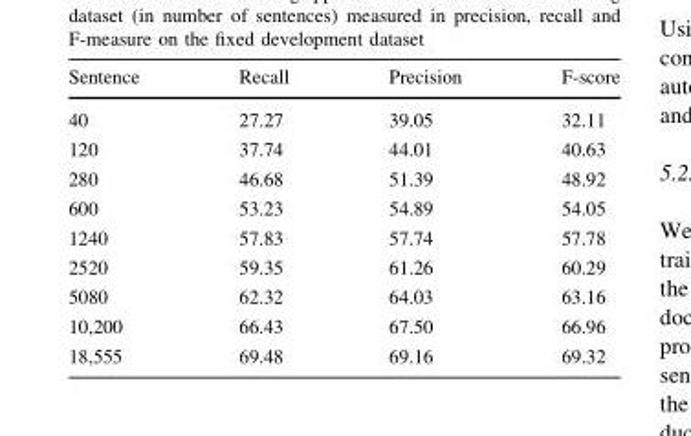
<table><thead><tr><td>Sentence</td><td>Recall</td><td>Precision</td><td>F-score</td></tr></thead><tbody><tr><td>40</td><td>27.27</td><td>39.05</td><td>32.11</td></tr><tr><td>120</td><td>37.74</td><td>44.01</td><td>40.63</td></tr><tr><td>280</td><td>46.68</td><td>51.39</td><td>48.92</td></tr><tr><td>600</td><td>53.23</td><td>54.89</td><td>54.05</td></tr><tr><td>1240</td><td>57.83</td><td>57.74</td><td>57.78</td></tr><tr><td>2520</td><td>59.35</td><td>61.26</td><td>60.29</td></tr><tr><td>5080</td><td>62.32</td><td>64.03</td><td>63.16</td></tr><tr><td>10,200</td><td>66.43</td><td>67.50</td><td>66.96</td></tr><tr><td>18,555</td><td>69.48</td><td>69.16</td><td>69.32</td></tr></tbody></table>